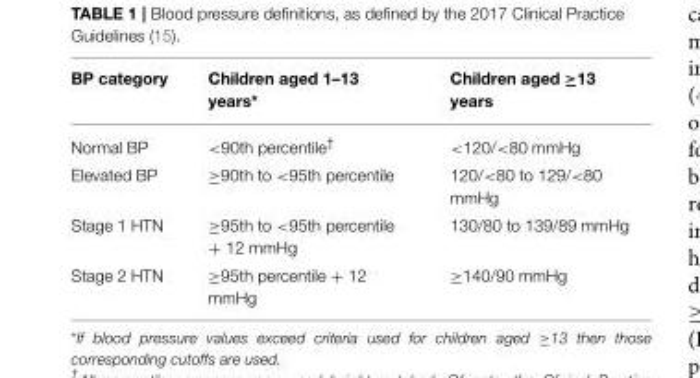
<table><thead><tr><td>BP category</td><td>Children aged 1–13 years*</td><td>Children aged ≥13 years</td></tr></thead><tbody><tr><td>Normal BP</td><td>&lt;90th percentile<sup>†</sup></td><td>&lt;120/&lt;80 mmHg</td></tr><tr><td>Elevated BP</td><td>≥90th to &lt;95th percentile</td><td>120/&lt;80 to 129/&lt;80 mmHg</td></tr><tr><td>Stage 1 HTN</td><td>≥95th to &lt;95th percentile + 12 mmHg</td><td>130/80 to 139/89 mmHg</td></tr><tr><td>Stage 2 HTN</td><td>≥95th percentile + 12 mmHg</td><td>≥140/90 mmHg</td></tr></tbody></table>